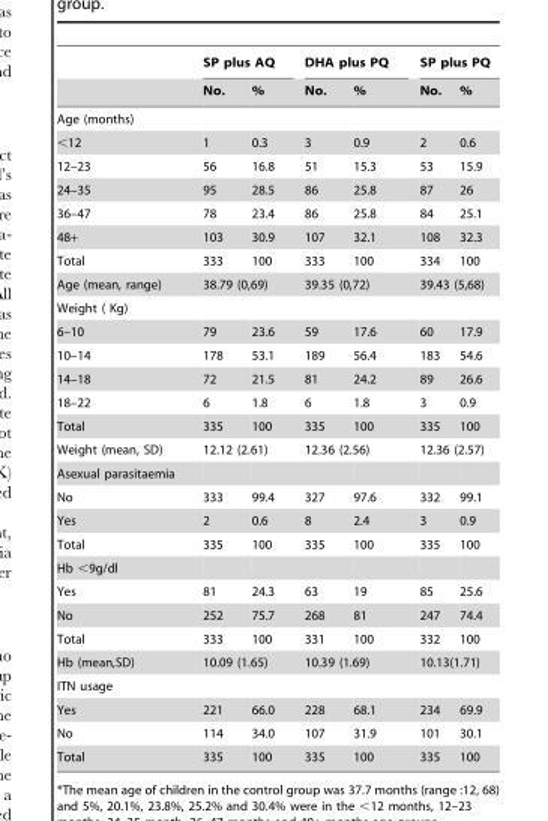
<table><thead><tr><td rowspan="2"></td><td colspan="2">SP plus AQ</td><td colspan="2">DHA plus PQ</td><td colspan="2">SP plus PQ</td></tr><tr><td>No.</td><td>%</td><td>No.</td><td>%</td><td>No.</td><td>%</td></tr></thead><tbody><tr><td colspan="7">Age (months)</td></tr><tr><td>&lt;12</td><td>1</td><td>0.3</td><td>3</td><td>0.9</td><td>2</td><td>0.6</td></tr><tr><td>12–23</td><td>56</td><td>16.8</td><td>51</td><td>15.3</td><td>53</td><td>15.9</td></tr><tr><td>24–35</td><td>95</td><td>28.5</td><td>86</td><td>25.8</td><td>87</td><td>26</td></tr><tr><td>36–47</td><td>78</td><td>23.4</td><td>86</td><td>25.8</td><td>84</td><td>25.1</td></tr><tr><td>48+</td><td>103</td><td>30.9</td><td>107</td><td>32.1</td><td>108</td><td>32.3</td></tr><tr><td>Total</td><td>333</td><td>100</td><td>333</td><td>100</td><td>334</td><td>100</td></tr><tr><td>Age (mean, range)</td><td colspan="2">38.79 (0,69)</td><td colspan="2">39.35 (0,72)</td><td colspan="2">39.43 (5,68)</td></tr><tr><td colspan="7">Weight ( Kg)</td></tr><tr><td>6–10</td><td>79</td><td>23.6</td><td>59</td><td>17.6</td><td>60</td><td>17.9</td></tr><tr><td>10–14</td><td>178</td><td>53.1</td><td>189</td><td>56.4</td><td>183</td><td>54.6</td></tr><tr><td>14–18</td><td>72</td><td>21.5</td><td>81</td><td>24.2</td><td>89</td><td>26.6</td></tr><tr><td>18–22</td><td>6</td><td>1.8</td><td>6</td><td>1.8</td><td>3</td><td>0.9</td></tr><tr><td>Total</td><td>335</td><td>100</td><td>335</td><td>100</td><td>335</td><td>100</td></tr><tr><td>Weight (mean, SD)</td><td colspan="2">12.12 (2.61)</td><td colspan="2">12.36 (2.56)</td><td colspan="2">12.36 (2.57)</td></tr><tr><td colspan="7">Asexual parasitaemia</td></tr><tr><td>No</td><td>333</td><td>99.4</td><td>327</td><td>97.6</td><td>332</td><td>99.1</td></tr><tr><td>Yes</td><td>2</td><td>0.6</td><td>8</td><td>2.4</td><td>3</td><td>0.9</td></tr><tr><td>Total</td><td>335</td><td>100</td><td>335</td><td>100</td><td>335</td><td>100</td></tr><tr><td colspan="7">Hb &lt;9g/dl</td></tr><tr><td>Yes</td><td>81</td><td>24.3</td><td>63</td><td>19</td><td>85</td><td>25.6</td></tr><tr><td>No</td><td>252</td><td>75.7</td><td>268</td><td>81</td><td>247</td><td>74.4</td></tr><tr><td>Total</td><td>333</td><td>100</td><td>331</td><td>100</td><td>332</td><td>100</td></tr><tr><td>Hb (mean,SD)</td><td colspan="2">10.09 (1.65)</td><td colspan="2">10.39 (1.69)</td><td colspan="2">10.13(1.71)</td></tr><tr><td colspan="7">ITN usage</td></tr><tr><td>Yes</td><td>221</td><td>66.0</td><td>228</td><td>68.1</td><td>234</td><td>69.9</td></tr><tr><td>No</td><td>114</td><td>34.0</td><td>107</td><td>31.9</td><td>101</td><td>30.1</td></tr><tr><td>Total</td><td>335</td><td>100</td><td>335</td><td>100</td><td>335</td><td>100</td></tr></tbody></table>